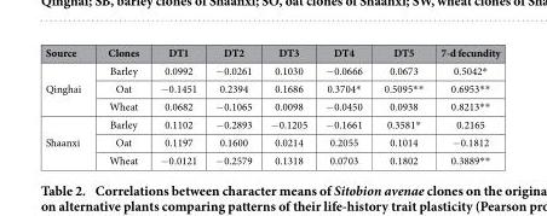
<table><thead><tr><td>Source</td><td>Clones</td><td>DT1</td><td>DT2</td><td>DT3</td><td>DT4</td><td>DT5</td><td>7-d fecundity</td></tr></thead><tbody><tr><td rowspan="3">Qinghai</td><td>Barley</td><td>0.0992</td><td>− 0.0261</td><td>0.1030</td><td>− 0.0666</td><td>0.0673</td><td>0.5042*</td></tr><tr><td>Oat</td><td>− 0.1451</td><td>0.2394</td><td>0.1686</td><td>0.3704*</td><td>0.5095* *</td><td>0.6953* *</td></tr><tr><td>Wheat</td><td>0.0682</td><td>− 0.1065</td><td>0.0098</td><td>− 0.0450</td><td>0.0938</td><td>0.8213* *</td></tr><tr><td rowspan="3">Shaanxi</td><td>Barley</td><td>0.1102</td><td>− 0.2893</td><td>− 0.1205</td><td>− 0.1661</td><td>0.3581*</td><td>0.2165</td></tr><tr><td>Oat</td><td>0.1197</td><td>0.1600</td><td>0.0214</td><td>0.2055</td><td>0.1014</td><td>− 0.1812</td></tr><tr><td>Wheat</td><td>− 0.0121</td><td>− 0.2579</td><td>0.1318</td><td>0.0703</td><td>0.1802</td><td>0.3889* *</td></tr></tbody></table>